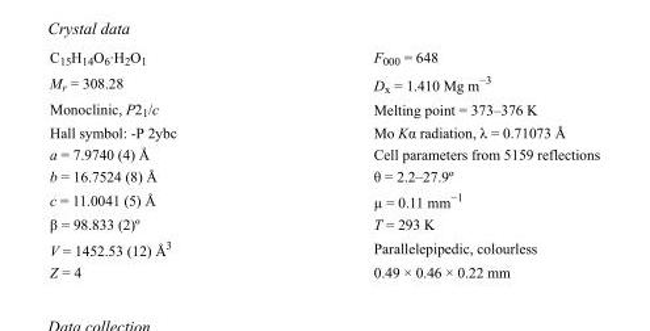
<table><tbody><tr><td>C15H14O6·H2O1</td><td>F000 = 648</td></tr><tr><td>M<sub>r</sub> = 308.28</td><td>D<sub>x</sub> = 1.410 Mg m<sup>−3</sup></td></tr><tr><td>Monoclinic, P2<sub>1</sub>/c</td><td>Melting point = 373–376 K</td></tr><tr><td>Hall symbol: -P 2ybc</td><td>Mo Kα radiation, λ = 0.71073 Å</td></tr><tr><td>a = 7.9740 (4) Å</td><td>Cell parameters from 5159 reflections</td></tr><tr><td>b = 16.7524 (8) Å</td><td>θ = 2.2–27.9º</td></tr><tr><td>c = 11.0041 (5) Å</td><td>µ = 0.11 mm<sup>−1</sup></td></tr><tr><td>β = 98.833 (2)º</td><td>T = 293 K</td></tr><tr><td>V = 1452.53 (12) Å<sup>3</sup></td><td>Parallelepipedic, colourless</td></tr><tr><td>Z = 4</td><td>0.49 × 0.46 × 0.22 mm</td></tr></tbody></table>